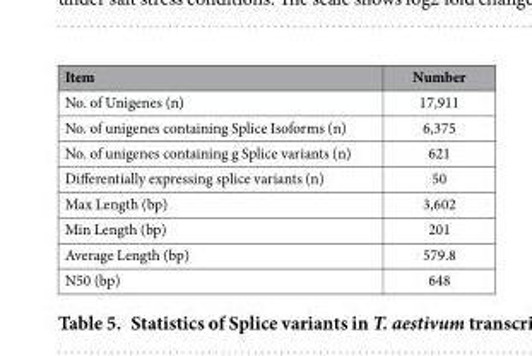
<table><thead><tr><td>Item</td><td>Number</td></tr></thead><tbody><tr><td>No. of Unigenes (n)</td><td>17,911</td></tr><tr><td>No. of unigenes containing Splice Isoforms (n)</td><td>6,375</td></tr><tr><td>No. of unigenes containing g Splice variants (n)</td><td>621</td></tr><tr><td>Differentially expressing splice variants (n)</td><td>50</td></tr><tr><td>Max Length (bp)</td><td>3,602</td></tr><tr><td>Min Length (bp)</td><td>201</td></tr><tr><td>Average Length (bp)</td><td>579.8</td></tr><tr><td>N50 (bp)</td><td>648</td></tr></tbody></table>